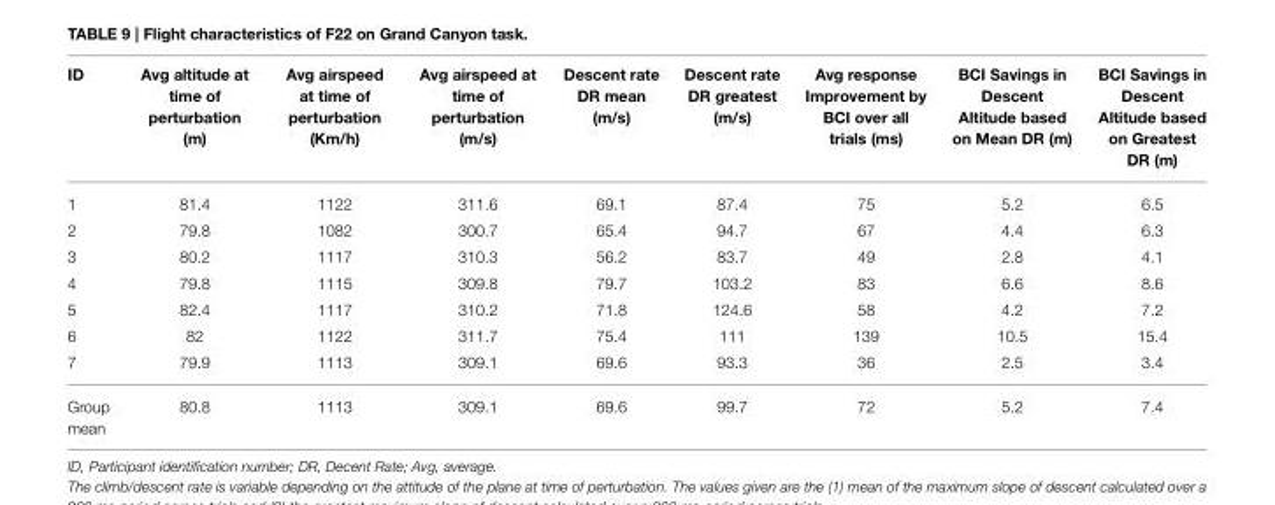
<table><thead><tr><td>ID</td><td>Avg altitude at time of perturbation (m)</td><td>Avg airspeed at time of perturbation (Km/h)</td><td>Avg airspeed at time of perturbation (m/s)</td><td>Descent rate DR mean (m/s)</td><td>Descent rate DR greatest (m/s)</td><td>Avg response Improvement by BCI over all trials (ms)</td><td>BCI Savings in Descent Altitude based on Mean DR (m)</td><td>BCI Savings in Descent Altitude based on Greatest DR (m)</td></tr></thead><tbody><tr><td>1</td><td>81.4</td><td>1122</td><td>311.6</td><td>69.1</td><td>87.4</td><td>75</td><td>5.2</td><td>6.5</td></tr><tr><td>2</td><td>79.8</td><td>1082</td><td>300.7</td><td>65.4</td><td>94.7</td><td>67</td><td>4.4</td><td>6.3</td></tr><tr><td>3</td><td>80.2</td><td>1117</td><td>310.3</td><td>56.2</td><td>83.7</td><td>49</td><td>2.8</td><td>4.1</td></tr><tr><td>4</td><td>79.8</td><td>1115</td><td>309.8</td><td>79.7</td><td>103.2</td><td>83</td><td>6.6</td><td>8.6</td></tr><tr><td>5</td><td>82.4</td><td>1117</td><td>310.2</td><td>71.8</td><td>124.6</td><td>58</td><td>4.2</td><td>7.2</td></tr><tr><td>6</td><td>82</td><td>1122</td><td>311.7</td><td>75.4</td><td>111</td><td>139</td><td>10.5</td><td>15.4</td></tr><tr><td>7</td><td>79.9</td><td>1113</td><td>309.1</td><td>69.6</td><td>93.3</td><td>36</td><td>2.5</td><td>3.4</td></tr><tr><td>Group mean</td><td>80.8</td><td>1113</td><td>309.1</td><td>69.6</td><td>99.7</td><td>72</td><td>5.2</td><td>7.4</td></tr></tbody></table>